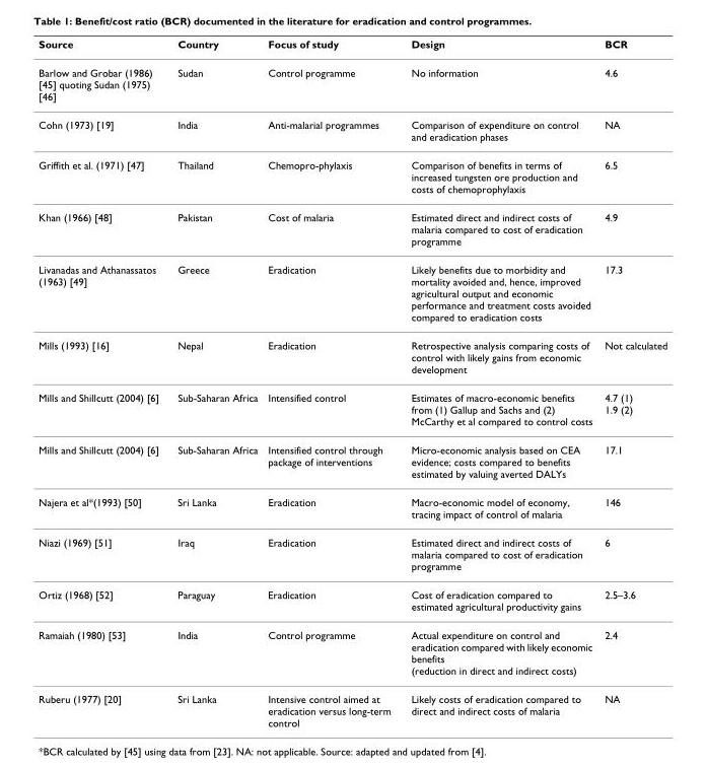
<table><thead><tr><td>Source</td><td>Country</td><td>Focus of study</td><td>Design</td><td>BCR</td></tr></thead><tbody><tr><td>Barlow and Grobar (1986) [45] quoting Sudan (1975) [46]</td><td>Sudan</td><td>Control programme</td><td>No information</td><td>4.6</td></tr><tr><td>Cohn (1973) [19]</td><td>India</td><td>Anti-malarial programmes</td><td>Comparison of expenditure on control and eradication phases</td><td>NA</td></tr><tr><td>Griffith et al. (1971) [47]</td><td>Thailand</td><td>Chemopro-phylaxis</td><td>Comparison of benefits in terms of increased tungsten ore production and costs of chemoprophylaxis</td><td>6.5</td></tr><tr><td>Khan (1966) [48]</td><td>Pakistan</td><td>Cost of malaria</td><td>Estimated direct and indirect costs of malaria compared to cost of eradication programme</td><td>4.9</td></tr><tr><td>Livanadas and Athanassatos (1963) [49]</td><td>Greece</td><td>Eradication</td><td>Likely benefits due to morbidity and mortality avoided and, hence, improved agricultural output and economic performance and treatment costs avoided compared to eradication costs</td><td>17.3</td></tr><tr><td>Mills (1993) [16]</td><td>Nepal</td><td>Eradication</td><td>Retrospective analysis comparing costs of control with likely gains from economic development</td><td>Not calculated</td></tr><tr><td>Mills and Shillcutt (2004) [6]</td><td>Sub-Saharan Africa</td><td>Intensified control</td><td>Estimates of macro-economic benefits from (1) Gallup and Sachs and (2) McCarthy et al compared to control costs</td><td>4.7 (1) 1.9 (2)</td></tr><tr><td>Mills and Shillcutt (2004) [6]</td><td>Sub-Saharan Africa</td><td>Intensified control through package of interventions</td><td>Micro-economic analysis based on CEA evidence; costs compared to benefits estimated by valuing averted DALYs</td><td>17.1</td></tr><tr><td>Najera et al*(1993) [50]</td><td>Sri Lanka</td><td>Eradication</td><td>Macro-economic model of economy, tracing impact of control of malaria</td><td>146</td></tr><tr><td>Niazi (1969) [51]</td><td>Iraq</td><td>Eradication</td><td>Estimated direct and indirect costs of malaria compared to cost of eradication programme</td><td>6</td></tr><tr><td>Ortiz (1968) [52]</td><td>Paraguay</td><td>Eradication</td><td>Cost of eradication compared to estimated agricultural productivity gains</td><td>2.5–3.6</td></tr><tr><td>Ramaiah (1980) [53]</td><td>India</td><td>Control programme</td><td>Actual expenditure on control and eradication compared with likely economic benefits (reduction in direct and indirect costs)</td><td>2.4</td></tr><tr><td>Ruberu (1977) [20]</td><td>Sri Lanka</td><td>Intensive control aimed at eradication versus long-term control</td><td>Likely costs of eradication compared to direct and indirect costs of malaria</td><td>NA</td></tr></tbody></table>